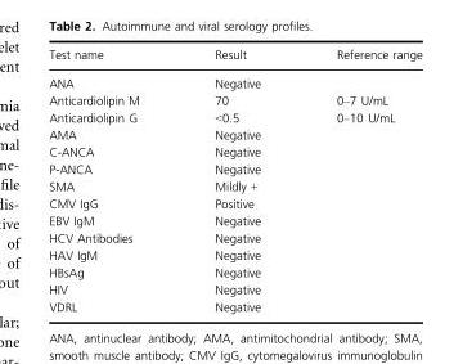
<table><thead><tr><td>Test name</td><td>Result</td><td>Reference range</td></tr></thead><tbody><tr><td>ANA</td><td>Negative</td><td></td></tr><tr><td>Anticardiolipin M</td><td>70</td><td>0–7 U/mL</td></tr><tr><td>Anticardiolipin G</td><td>&lt;0.5</td><td>0–10 U/mL</td></tr><tr><td>AMA</td><td>Negative</td><td></td></tr><tr><td>C-ANCA</td><td>Negative</td><td></td></tr><tr><td>P-ANCA</td><td>Negative</td><td></td></tr><tr><td>SMA</td><td>Mildly +</td><td></td></tr><tr><td>CMV IgG</td><td>Positive</td><td></td></tr><tr><td>EBV IgM</td><td>Negative</td><td></td></tr><tr><td>HCV Antibodies</td><td>Negative</td><td></td></tr><tr><td>HAV IgM</td><td>Negative</td><td></td></tr><tr><td>HBsAg</td><td>Negative</td><td></td></tr><tr><td>HIV</td><td>Negative</td><td></td></tr><tr><td>VDRL</td><td>Negative</td><td></td></tr></tbody></table>